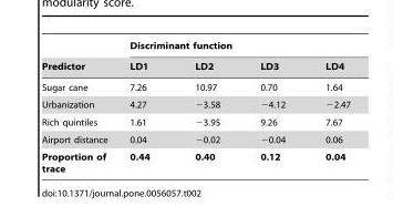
<table><thead><tr><td rowspan="2">Predictor</td><td colspan="4">Discriminant function</td></tr><tr><td>LD1</td><td>LD2</td><td>LD3</td><td>LD4</td></tr></thead><tbody><tr><td>Sugar cane</td><td>7.26</td><td>10.97</td><td>0.70</td><td>1.64</td></tr><tr><td>Urbanization</td><td>4.27</td><td>−3.58</td><td>−4.12</td><td>−2.47</td></tr><tr><td>Rich quintiles</td><td>1.61</td><td>−3.95</td><td>9.26</td><td>7.67</td></tr><tr><td>Airport distance</td><td>0.04</td><td>−0.02</td><td>−0.04</td><td>0.06</td></tr><tr><td>Proportion of trace</td><td>0.44</td><td>0.40</td><td>0.12</td><td>0.04</td></tr></tbody></table>